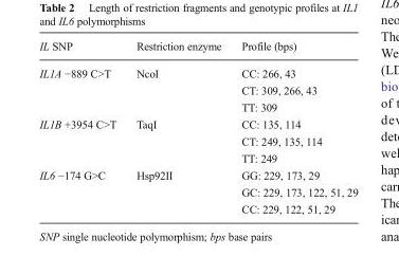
<table><thead><tr><td>IL SNP</td><td>Restriction enzyme</td><td>Profile (bps)</td></tr></thead><tbody><tr><td rowspan="3">IL1A −889 C&gt;T</td><td rowspan="3">NcoI</td><td>CC: 266, 43</td></tr><tr><td>CT: 309, 266, 43</td></tr><tr><td>TT: 309</td></tr><tr><td rowspan="3">IL1B +3954 C&gt;T</td><td rowspan="3">TaqI</td><td>CC: 135, 114</td></tr><tr><td>CT: 249, 135, 114</td></tr><tr><td>TT: 249</td></tr><tr><td rowspan="3">IL6 −174 G&gt;C</td><td rowspan="3">Hsp92II</td><td>GG: 229, 173, 29</td></tr><tr><td>GC: 229, 173, 122, 51, 29</td></tr><tr><td>CC: 229, 122, 51, 29</td></tr></tbody></table>